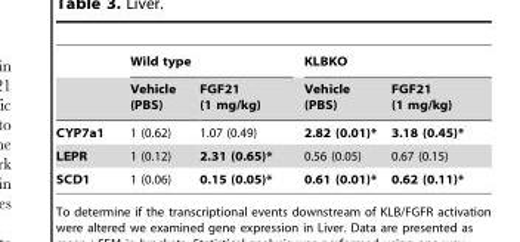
<table><thead><tr><td rowspan="2"></td><td colspan="2">Wild type</td><td colspan="2">KLBKO</td></tr><tr><td>Vehicle (PBS)</td><td>FGF21 (1 mg/kg)</td><td>Vehicle (PBS)</td><td>FGF21 (1 mg/kg)</td></tr></thead><tbody><tr><td>CYP7a1</td><td>1 (0.62)</td><td>1.07 (0.49)</td><td>2.82 (0.01)*</td><td>3.18 (0.45)*</td></tr><tr><td>LEPR</td><td>1 (0.12)</td><td>2.31 (0.65)*</td><td>0.56 (0.05)</td><td>0.67 (0.15)</td></tr><tr><td>SCD1</td><td>1 (0.06)</td><td>0.15 (0.05)*</td><td>0.61 (0.01)*</td><td>0.62 (0.11)*</td></tr></tbody></table>